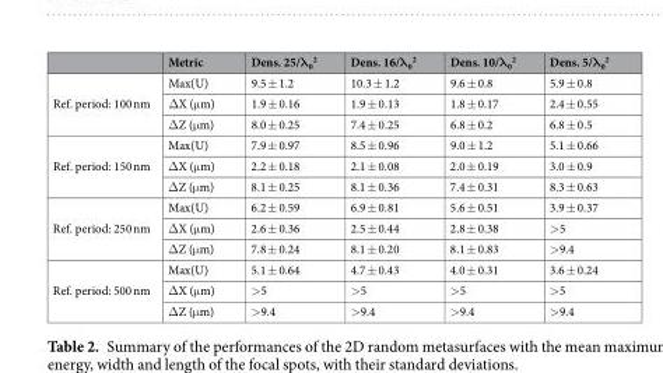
<table><thead><tr><td></td><td>Metric</td><td>Dens. 25/λ<sub>0</sub> <sup>2</sup></td><td>Dens. 16/λ<sub>0</sub> <sup>2</sup></td><td>Dens. 10/λ<sub>0</sub> <sup>2</sup></td><td>Dens. 5/λ<sub>0</sub> <sup>2</sup></td></tr></thead><tbody><tr><td rowspan="3">Ref. period: 100 nm</td><td>Max(U)</td><td>9.5 ± 1.2</td><td>10.3 ± 1.2</td><td>9.6 ± 0.8</td><td>5.9 ± 0.8</td></tr><tr><td>ΔX (μm)</td><td>1.9 ± 0.16</td><td>1.9 ± 0.13</td><td>1.8 ± 0.17</td><td>2.4 ± 0.55</td></tr><tr><td>ΔZ (μm)</td><td>8.0 ± 0.25</td><td>7.4 ± 0.25</td><td>6.8 ± 0.2</td><td>6.8 ± 0.5</td></tr><tr><td rowspan="3">Ref. period: 150 nm</td><td>Max(U)</td><td>7.9 ± 0.97</td><td>8.5 ± 0.96</td><td>9.0 ± 1.2</td><td>5.1 ± 0.66</td></tr><tr><td>ΔX (μm)</td><td>2.2 ± 0.18</td><td>2.1 ± 0.08</td><td>2.0 ± 0.19</td><td>3.0 ± 0.9</td></tr><tr><td>ΔZ (μm)</td><td>8.1 ± 0.25</td><td>8.1 ± 0.36</td><td>7.4 ± 0.31</td><td>8.3 ± 0.63</td></tr><tr><td rowspan="3">Ref. period: 250 nm</td><td>Max(U)</td><td>6.2 ± 0.59</td><td>6.9 ± 0.81</td><td>5.6 ± 0.51</td><td>3.9 ± 0.37</td></tr><tr><td>ΔX (μm)</td><td>2.6 ± 0.36</td><td>2.5 ± 0.44</td><td>2.8 ± 0.38</td><td>&gt;5</td></tr><tr><td>ΔZ (μm)</td><td>7.8 ± 0.24</td><td>8.1 ± 0.20</td><td>8.1 ± 0.83</td><td>&gt;9.4</td></tr><tr><td rowspan="3">Ref. period: 500 nm</td><td>Max(U)</td><td>5.1 ± 0.64</td><td>4.7 ± 0.43</td><td>4.0 ± 0.31</td><td>3.6 ± 0.24</td></tr><tr><td>ΔX (μm)</td><td>&gt;5</td><td>&gt;5</td><td>&gt;5</td><td>&gt;5</td></tr><tr><td>ΔZ (μm)</td><td>&gt;9.4</td><td>&gt;9.4</td><td>&gt;9.4</td><td>&gt;9.4</td></tr></tbody></table>